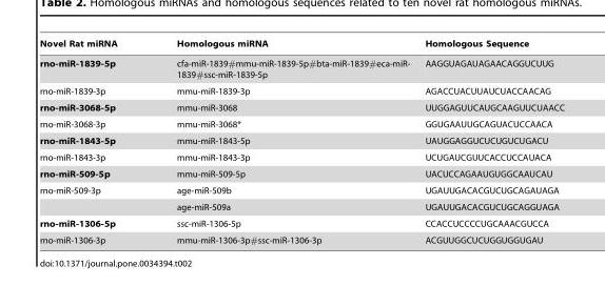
<table><thead><tr><td>Novel Rat miRNA</td><td>Homologous miRNA</td><td>Homologous Sequence</td></tr></thead><tbody><tr><td>rno-miR-1839-5p</td><td>cfa-miR-1839#mmu-miR-1839-5p#bta-miR-1839#eca-miR- 1839#ssc-miR-1839-5p</td><td>AAGGUAGAUAGAACAGGUCUUG</td></tr><tr><td>rno-miR-1839-3p</td><td>mmu-miR-1839-3p</td><td>AGACCUACUUAUCUACCAACAG</td></tr><tr><td>rno-miR-3068-5p</td><td>mmu-miR-3068</td><td>UUGGAGUUCAUGCAAGUUCUAACC</td></tr><tr><td>rno-miR-3068-3p</td><td>mmu-miR-3068*</td><td>GGUGAAUUGCAGUACUCCAACA</td></tr><tr><td>rno-miR-1843-5p</td><td>mmu-miR-1843-5p</td><td>UAUGGAGGUCUCUGUCUGACU</td></tr><tr><td>rno-miR-1843-3p</td><td>mmu-miR-1843-3p</td><td>UCUGAUCGUUCACCUCCAUACA</td></tr><tr><td>rno-miR-509-5p</td><td>mmu-miR-509-5p</td><td>UACUCCAGAAUGUGGCAAUCAU</td></tr><tr><td rowspan="2">rno-miR-509-3p</td><td>age-miR-509b</td><td>UGAUUGACACGUCUGCAGAUAGA</td></tr><tr><td>age-miR-509a</td><td>UGAUUGACACGUCUGCAGGUAGA</td></tr><tr><td>rno-miR-1306-5p</td><td>ssc-miR-1306-5p</td><td>CCACCUCCCCUGCAAACGUCCA</td></tr><tr><td>rno-miR-1306-3p</td><td>mmu-miR-1306-3p#ssc-miR-1306-3p</td><td>ACGUUGGCUCUGGUGGUGAU</td></tr></tbody></table>